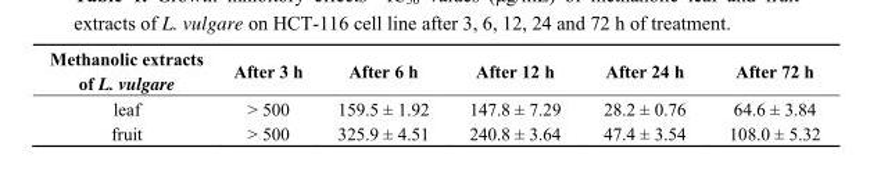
<table><thead><tr><td>Methanolic extracts of L. vulgare</td><td>After 3 h</td><td>After 6 h</td><td>After 12 h</td><td>After 24 h</td><td>After 72 h</td></tr></thead><tbody><tr><td>leaf</td><td>&gt; 500</td><td>159.5 ± 1.92</td><td>147.8 ± 7.29</td><td>28.2 ± 0.76</td><td>64.6 ± 3.84</td></tr><tr><td>fruit</td><td>&gt; 500</td><td>325.9 ± 4.51</td><td>240.8 ± 3.64</td><td>47.4 ± 3.54</td><td>108.0 ± 5.32</td></tr></tbody></table>